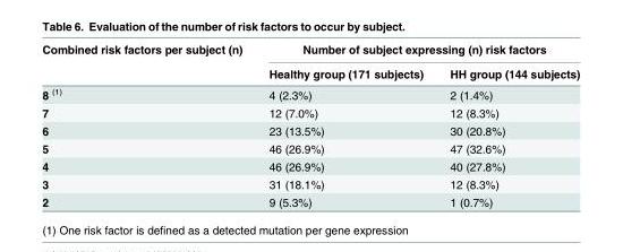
<table><thead><tr><td rowspan="2">Combined risk factors per subject (n)</td><td colspan="2">Number of subject expressing (n) risk factors</td></tr><tr><td>Healthy group (171 subjects)</td><td>HH group (144 subjects)</td></tr></thead><tbody><tr><td>8 <sup>(1)</sup></td><td>4 (2.3%)</td><td>2 (1.4%)</td></tr><tr><td>7</td><td>12 (7.0%)</td><td>12 (8.3%)</td></tr><tr><td>6</td><td>23 (13.5%)</td><td>30 (20.8%)</td></tr><tr><td>5</td><td>46 (26.9%)</td><td>47 (32.6%)</td></tr><tr><td>4</td><td>46 (26.9%)</td><td>40 (27.8%)</td></tr><tr><td>3</td><td>31 (18.1%)</td><td>12 (8.3%)</td></tr><tr><td>2</td><td>9 (5.3%)</td><td>1 (0.7%)</td></tr></tbody></table>